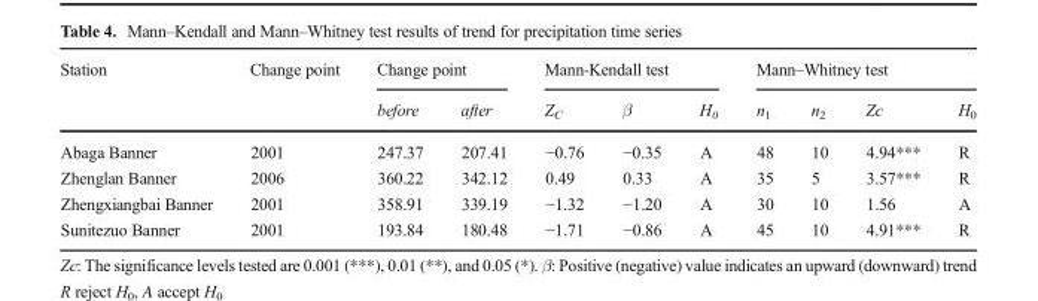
<table><thead><tr><td rowspan="2">Station</td><td rowspan="2">Change point</td><td colspan="2">Change point</td><td colspan="3">Mann-Kendall test</td><td colspan="4">Mann–Whitney test</td></tr><tr><td>before</td><td>after</td><td>Z<sub>C</sub></td><td>β</td><td>H<sub>0</sub></td><td>n<sub>1</sub></td><td>n<sub>2</sub></td><td>Zc</td><td>H<sub>0</sub></td></tr></thead><tbody><tr><td>Abaga Banner</td><td>2001</td><td>247.37</td><td>207.41</td><td>−0.76</td><td>−0.35</td><td>A</td><td>48</td><td>10</td><td>4.94***</td><td>R</td></tr><tr><td>Zhenglan Banner</td><td>2006</td><td>360.22</td><td>342.12</td><td>0.49</td><td>0.33</td><td>A</td><td>35</td><td>5</td><td>3.57***</td><td>R</td></tr><tr><td>Zhengxiangbai Banner</td><td>2001</td><td>358.91</td><td>339.19</td><td>−1.32</td><td>−1.20</td><td>A</td><td>30</td><td>10</td><td>1.56</td><td>A</td></tr><tr><td>Sunitezuo Banner</td><td>2001</td><td>193.84</td><td>180.48</td><td>−1.71</td><td>−0.86</td><td>A</td><td>45</td><td>10</td><td>4.91***</td><td>R</td></tr></tbody></table>